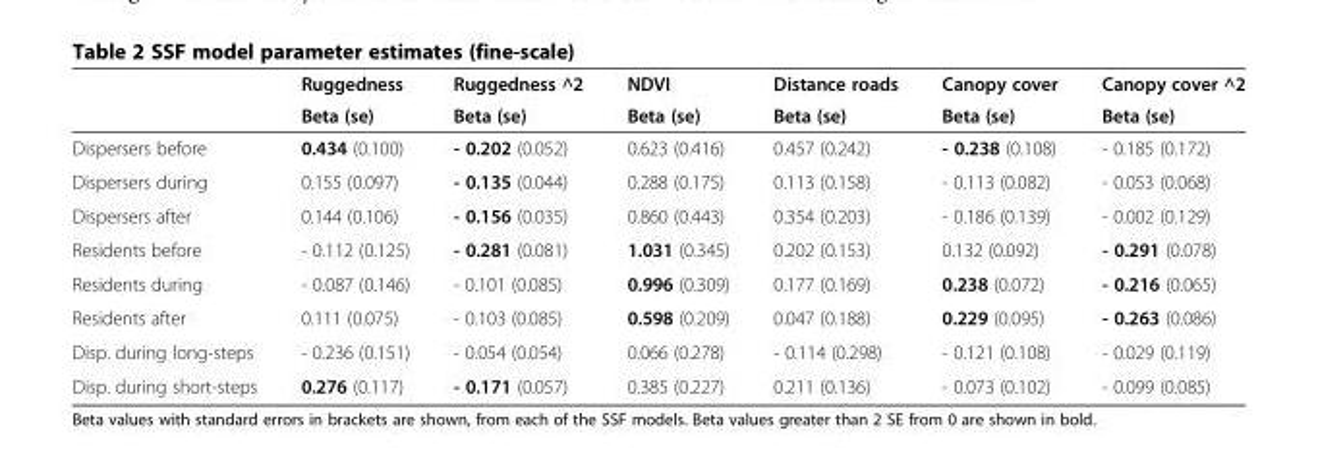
<table><thead><tr><td rowspan="2"></td><td rowspan="2">Ruggedness Beta (se)</td><td rowspan="2">Ruggedness ^2 Beta (se)</td><td rowspan="2">NDVI Beta (se)</td><td rowspan="2">Distance roads Beta (se)</td><td rowspan="2">Canopy cover Beta (se)</td><td rowspan="2">Canopy cover ^2 Beta (se)</td></tr><tr></tr></thead><tbody><tr><td>Dispersers before</td><td>0.434 (0.100)</td><td>- 0.202 (0.052)</td><td>0.623 (0.416)</td><td>0.457 (0.242)</td><td>- 0.238 (0.108)</td><td>- 0.185 (0.172)</td></tr><tr><td>Dispersers during</td><td>0.155 (0.097)</td><td>- 0.135 (0.044)</td><td>0.288 (0.175)</td><td>0.113 (0.158)</td><td>- 0.113 (0.082)</td><td>- 0.053 (0.068)</td></tr><tr><td>Dispersers after</td><td>0.144 (0.106)</td><td>- 0.156 (0.035)</td><td>0.860 (0.443)</td><td>0.354 (0.203)</td><td>- 0.186 (0.139)</td><td>- 0.002 (0.129)</td></tr><tr><td>Residents before</td><td>- 0.112 (0.125)</td><td>- 0.281 (0.081)</td><td>1.031 (0.345)</td><td>0.202 (0.153)</td><td>0.132 (0.092)</td><td>- 0.291 (0.078)</td></tr><tr><td>Residents during</td><td>- 0.087 (0.146)</td><td>- 0.101 (0.085)</td><td>0.996 (0.309)</td><td>0.177 (0.169)</td><td>0.238 (0.072)</td><td>- 0.216 (0.065)</td></tr><tr><td>Residents after</td><td>0.111 (0.075)</td><td>- 0.103 (0.085)</td><td>0.598 (0.209)</td><td>0.047 (0.188)</td><td>0.229 (0.095)</td><td>- 0.263 (0.086)</td></tr><tr><td>Disp. during long-steps</td><td>- 0.236 (0.151)</td><td>- 0.054 (0.054)</td><td>0.066 (0.278)</td><td>- 0.114 (0.298)</td><td>- 0.121 (0.108)</td><td>- 0.029 (0.119)</td></tr><tr><td>Disp. during short-steps</td><td>0.276 (0.117)</td><td>- 0.171 (0.057)</td><td>0.385 (0.227)</td><td>0.211 (0.136)</td><td>- 0.073 (0.102)</td><td>- 0.099 (0.085)</td></tr></tbody></table>